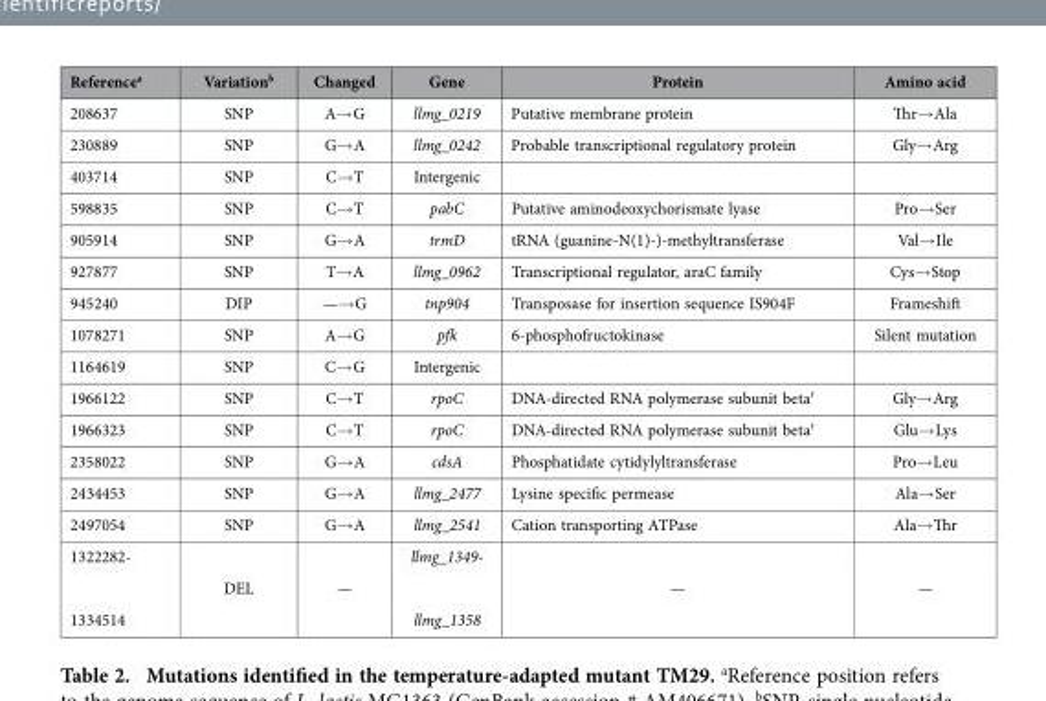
<table><thead><tr><td>Reference<sup>a</sup></td><td>Variation<sup>b</sup></td><td>Changed</td><td>Gene</td><td>Protein</td><td>Amino acid</td></tr></thead><tbody><tr><td>208637</td><td>SNP</td><td>A→ G</td><td>llmg_0219</td><td>Putative membrane protein</td><td>Thr→ Ala</td></tr><tr><td>230889</td><td>SNP</td><td>G→ A</td><td>llmg_0242</td><td>Probable transcriptional regulatory protein</td><td>Gly→ Arg</td></tr><tr><td>403714</td><td>SNP</td><td>C→ T</td><td>Intergenic</td><td></td><td></td></tr><tr><td>598835</td><td>SNP</td><td>C→ T</td><td>pabC</td><td>Putative aminodeoxychorismate lyase</td><td>Pro→ Ser</td></tr><tr><td>905914</td><td>SNP</td><td>G→ A</td><td>trmD</td><td>tRNA (guanine-N(1)-)-methyltransferase</td><td>Val→ Ile</td></tr><tr><td>927877</td><td>SNP</td><td>T→ A</td><td>llmg_0962</td><td>Transcriptional regulator, araC family</td><td>Cys→ Stop</td></tr><tr><td>945240</td><td>DIP</td><td>—→ G</td><td>tnp904</td><td>Transposase for insertion sequence IS904F</td><td>Frameshift</td></tr><tr><td>1078271</td><td>SNP</td><td>A→ G</td><td>pfk</td><td>6-phosphofructokinase</td><td>Silent mutation</td></tr><tr><td>1164619</td><td>SNP</td><td>C→ G</td><td>Intergenic</td><td></td><td></td></tr><tr><td>1966122</td><td>SNP</td><td>C→ T</td><td>rpoC</td><td>DNA-directed RNA polymerase subunit beta′</td><td>Gly→ Arg</td></tr><tr><td>1966323</td><td>SNP</td><td>C→ T</td><td>rpoC</td><td>DNA-directed RNA polymerase subunit beta′</td><td>Glu→ Lys</td></tr><tr><td>2358022</td><td>SNP</td><td>G→ A</td><td>cdsA</td><td>Phosphatidate cytidylyltransferase</td><td>Pro→ Leu</td></tr><tr><td>2434453</td><td>SNP</td><td>G→ A</td><td>llmg_2477</td><td>Lysine specific permease</td><td>Ala→ Ser</td></tr><tr><td>2497054</td><td>SNP</td><td>G→ A</td><td>llmg_2541</td><td>Cation transporting ATPase</td><td>Ala→ Thr</td></tr><tr><td rowspan="2">1322282-</td><td></td><td></td><td>llmg_1349-</td><td></td><td></td></tr><tr><td>DEL</td><td>—</td><td></td><td>—</td><td>—</td></tr><tr><td>1334514</td><td></td><td></td><td>llmg_1358</td><td></td><td></td></tr></tbody></table>